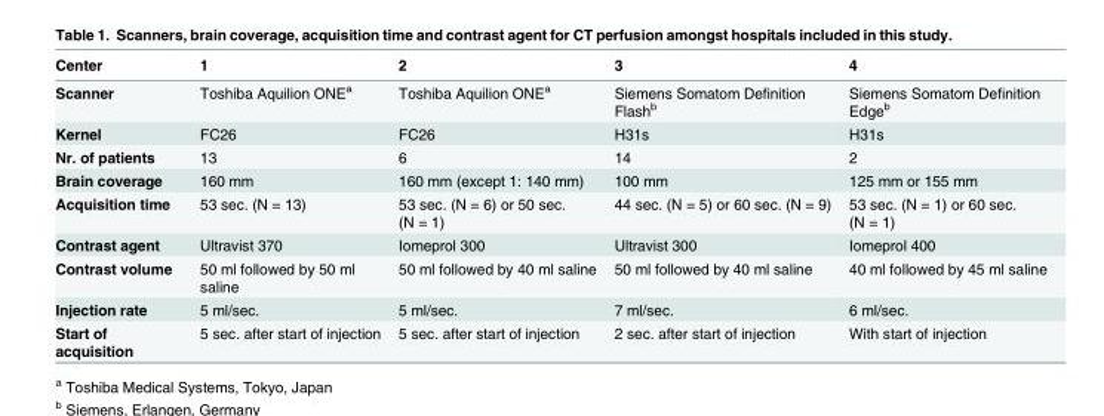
<table><thead><tr><td>Center</td><td>1</td><td>2</td><td>3</td><td>4</td></tr></thead><tbody><tr><td>Scanner</td><td>Toshiba Aquilion ONE<sup>a</sup></td><td>Toshiba Aquilion ONE<sup>a</sup></td><td>Siemens Somatom Definition Flash<sup>b</sup></td><td>Siemens Somatom Definition Edge<sup>b</sup></td></tr><tr><td>Kernel</td><td>FC26</td><td>FC26</td><td>H31s</td><td>H31s</td></tr><tr><td>Nr. of patients</td><td>13</td><td>6</td><td>14</td><td>2</td></tr><tr><td>Brain coverage</td><td>160 mm</td><td>160 mm (except 1: 140 mm)</td><td>100 mm</td><td>125 mm or 155 mm</td></tr><tr><td>Acquisition time</td><td>53 sec. (N = 13)</td><td>53 sec. (N = 6) or 50 sec. (N = 1)</td><td>44 sec. (N = 5) or 60 sec. (N = 9)</td><td>53 sec. (N = 1) or 60 sec. (N = 1)</td></tr><tr><td>Contrast agent</td><td>Ultravist 370</td><td>Iomeprol 300</td><td>Ultravist 300</td><td>Iomeprol 400</td></tr><tr><td>Contrast volume</td><td>50 ml followed by 50 ml saline</td><td>50 ml followed by 40 ml saline</td><td>50 ml followed by 40 ml saline</td><td>40 ml followed by 45 ml saline</td></tr><tr><td>Injection rate</td><td>5 ml/sec.</td><td>5 ml/sec.</td><td>7 ml/sec.</td><td>6 ml/sec.</td></tr><tr><td>Start of acquisition</td><td>5 sec. after start of injection</td><td>5 sec. after start of injection</td><td>2 sec. after start of injection</td><td>With start of injection</td></tr></tbody></table>